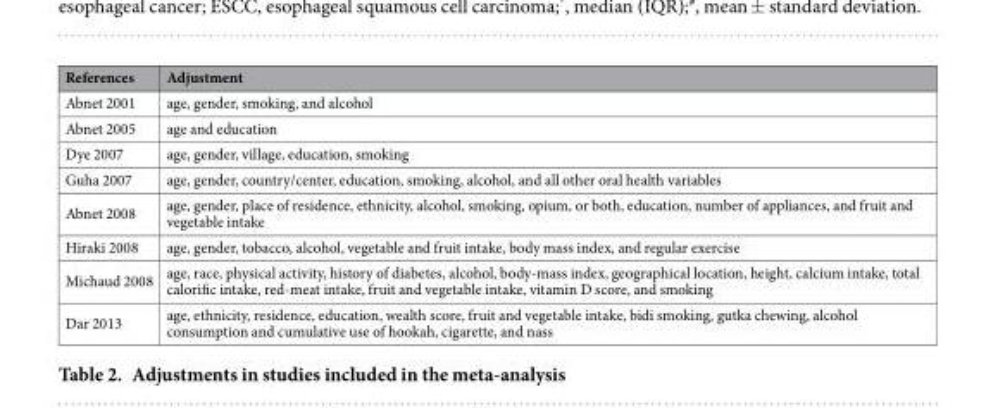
<table><thead><tr><td>References</td><td>Adjustment</td></tr></thead><tbody><tr><td>Abnet 2001</td><td>age, gender, smoking, and alcohol</td></tr><tr><td>Abnet 2005</td><td>age and education</td></tr><tr><td>Dye 2007</td><td>age, gender, village, education, smoking</td></tr><tr><td>Guha 2007</td><td>age, gender, country/center, education, smoking, alcohol, and all other oral health variables</td></tr><tr><td>Abnet 2008</td><td>age, gender, place of residence, ethnicity, alcohol, smoking, opium, or both, education, number of appliances, and fruit and vegetable intake</td></tr><tr><td>Hiraki 2008</td><td>age, gender, tobacco, alcohol, vegetable and fruit intake, body mass index, and regular exercise</td></tr><tr><td>Michaud 2008</td><td>age, race, physical activity, history of diabetes, alcohol, body-mass index, geographical location, height, calcium intake, total calorific intake, red-meat intake, fruit and vegetable intake, vitamin D score, and smoking</td></tr><tr><td>Dar 2013</td><td>age, ethnicity, residence, education, wealth score, fruit and vegetable intake, bidi smoking, gutka chewing, alcohol consumption and cumulative use of hookah, cigarette, and nass</td></tr></tbody></table>